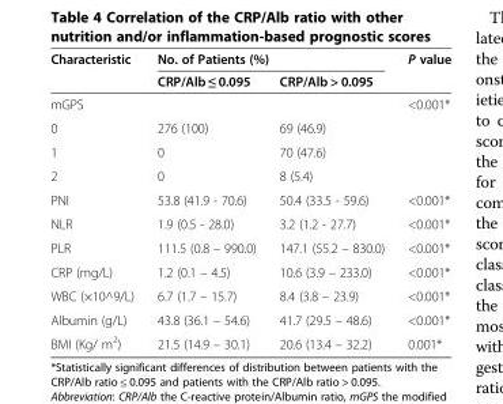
<table><thead><tr><td rowspan="2">Characteristic</td><td colspan="2">No. of Patients (%)</td><td rowspan="2">P value</td></tr><tr><td>CRP/Alb ≤ 0.095</td><td>CRP/Alb &gt; 0.095</td></tr></thead><tbody><tr><td>mGPS</td><td></td><td></td><td>&lt;0.001*</td></tr><tr><td>0</td><td>276 (100)</td><td>69 (46.9)</td><td></td></tr><tr><td>1</td><td>0</td><td>70 (47.6)</td><td></td></tr><tr><td>2</td><td>0</td><td>8 (5.4)</td><td></td></tr><tr><td>PNI</td><td>53.8 (41.9 - 70.6)</td><td>50.4 (33.5 - 59.6)</td><td>&lt;0.001*</td></tr><tr><td>NLR</td><td>1.9 (0.5 - 28.0)</td><td>3.2 (1.2 - 27.7)</td><td>&lt;0.001*</td></tr><tr><td>PLR</td><td>111.5 (0.8 – 990.0)</td><td>147.1 (55.2 – 830.0)</td><td>&lt;0.001*</td></tr><tr><td>CRP (mg/L)</td><td>1.2 (0.1 – 4.5)</td><td>10.6 (3.9 – 233.0)</td><td>&lt;0.001*</td></tr><tr><td>WBC (×10^9/L)</td><td>6.7 (1.7 – 15.7)</td><td>8.4 (3.8 – 23.9)</td><td>&lt;0.001*</td></tr><tr><td>Albumin (g/L)</td><td>43.8 (36.1 – 54.6)</td><td>41.7 (29.5 – 48.6)</td><td>&lt;0.001*</td></tr><tr><td>BMI (Kg/ m<sup>2</sup>)</td><td>21.5 (14.9 – 30.1)</td><td>20.6 (13.4 – 32.2)</td><td>0.001*</td></tr></tbody></table>